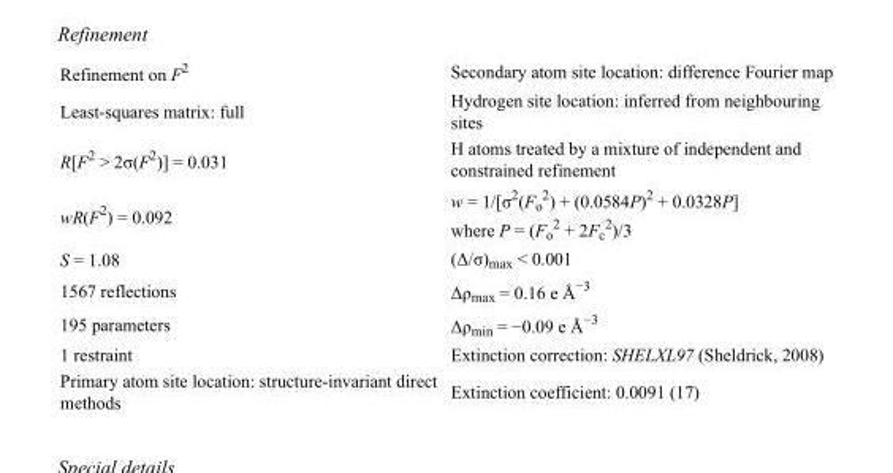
<table><tbody><tr><td>Refinement on F<sup>2</sup></td><td>Secondary atom site location: difference Fourier map</td></tr><tr><td>Least-squares matrix: full</td><td>Hydrogen site location: inferred from neighbouring sites</td></tr><tr><td>R[F<sup>2</sup> &gt; 2σ(F<sup>2</sup>)] = 0.031</td><td>H atoms treated by a mixture of independent and constrained refinement</td></tr><tr><td>wR(F<sup>2</sup>) = 0.092</td><td>w = 1/[σ<sup>2</sup>(F<sub>o</sub> <sup>2</sup>) + (0.0584P)<sup>2</sup> + 0.0328P] where P = (F<sub>o</sub> <sup>2</sup> + 2F<sub>c</sub> <sup>2</sup>)/3</td></tr><tr><td>S = 1.08</td><td>(Δ/σ)<sub>max</sub> &lt; 0.001</td></tr><tr><td>1567 reflections</td><td>Δρ<sub>max</sub> = 0.16 e Å<sup>−3</sup></td></tr><tr><td>195 parameters</td><td>Δρ<sub>min</sub> = −0.09 e Å<sup>−3</sup></td></tr><tr><td>1 restraint</td><td>Extinction correction: SHELXL97 (Sheldrick, 2008)</td></tr><tr><td>Primary atom site location: structure-invariant direct methods</td><td>Extinction coefficient: 0.0091 (17)</td></tr></tbody></table>